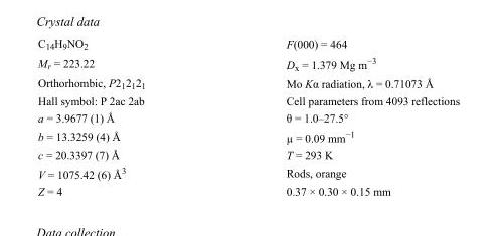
<table><tbody><tr><td>C<sub>14</sub>H<sub>9</sub>NO<sub>2</sub></td><td>F(000) = 464</td></tr><tr><td>M<sub>r</sub> = 223.22</td><td>D<sub>x</sub> = 1.379 Mg m<sup>−3</sup></td></tr><tr><td>Orthorhombic, P2<sub>1</sub>2<sub>1</sub>2<sub>1</sub></td><td>Mo Kα radiation, λ = 0.71073 Å</td></tr><tr><td>Hall symbol: P 2ac 2ab</td><td>Cell parameters from 4093 reflections</td></tr><tr><td>a = 3.9677 (1) Å</td><td>θ = 1.0–27.5°</td></tr><tr><td>b = 13.3259 (4) Å</td><td>µ = 0.09 mm<sup>−1</sup></td></tr><tr><td>c = 20.3397 (7) Å</td><td>T = 293 K</td></tr><tr><td>V = 1075.42 (6) Å<sup>3</sup></td><td>Rods, orange</td></tr><tr><td>Z = 4</td><td>0.37 × 0.30 × 0.15 mm</td></tr></tbody></table>